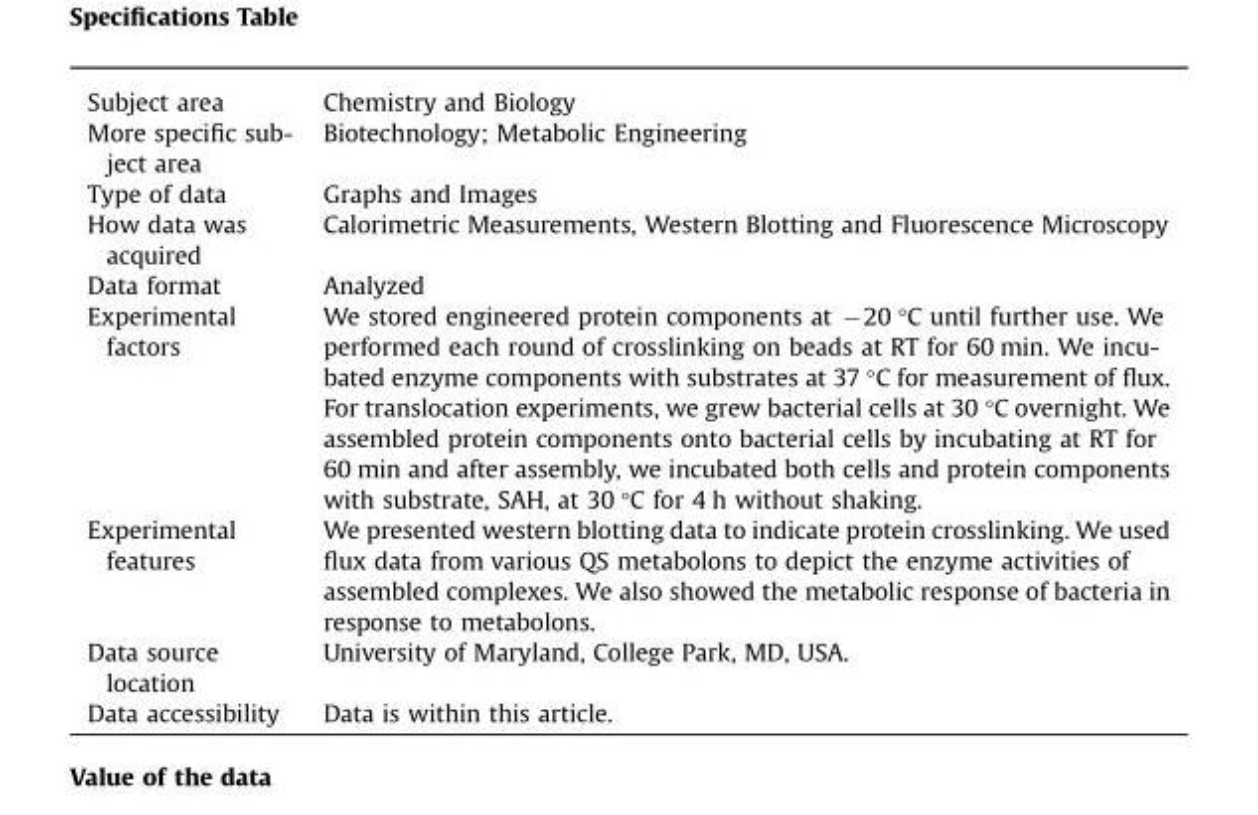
<table><tbody><tr><td>Subject area</td><td>Chemistry and Biology</td></tr><tr><td>More specific sub- ject area</td><td>Biotechnology; Metabolic Engineering</td></tr><tr><td>Type of data</td><td>Graphs and Images</td></tr><tr><td>How data was acquired</td><td>Calorimetric Measurements, Western Blotting and Fluorescence Microscopy</td></tr><tr><td>Data format</td><td>Analyzed</td></tr><tr><td>Experimental factors</td><td>We stored engineered protein components at �20 °C until further use. We performed each round of crosslinking on beads at RT for 60 min. We incu- bated enzyme components with substrates at 37 °C for measurement of flux. For translocation experiments, we grew bacterial cells at 30 °C overnight. We assembled protein components onto bacterial cells by incubating at RT for 60 min and after assembly, we incubated both cells and protein components with substrate, SAH, at 30 °C for 4 h without shaking.</td></tr><tr><td>Experimental features</td><td>We presented western blotting data to indicate protein crosslinking. We used flux data from various QS metabolons to depict the enzyme activities of assembled complexes. We also showed the metabolic response of bacteria in response to metabolons.</td></tr><tr><td>Data source location</td><td>University of Maryland, College Park, MD, USA.</td></tr><tr><td>Data accessibility</td><td>Data is within this article.</td></tr></tbody></table>